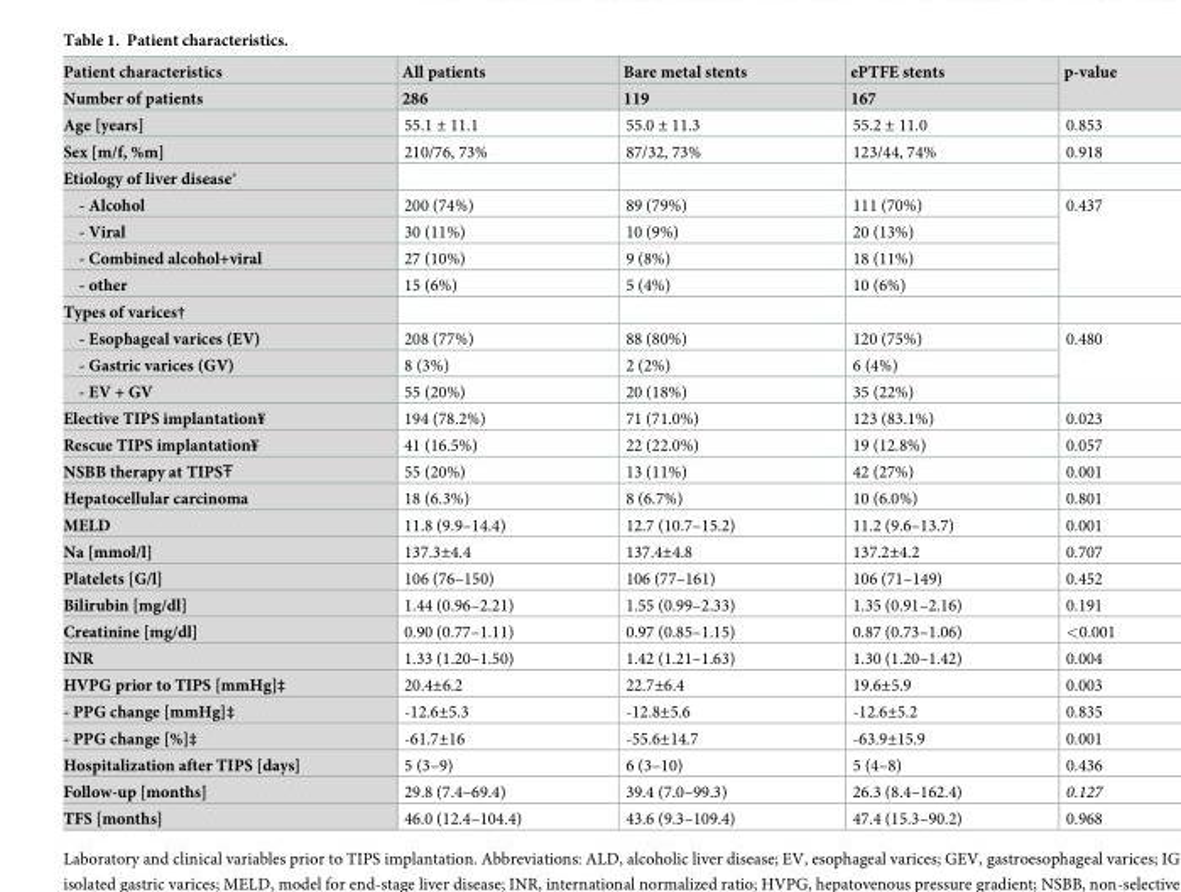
<table><thead><tr><td rowspan="2">Patient characteristics Number of patients</td><td rowspan="2">All patients 286</td><td rowspan="2">Bare metal stents 119</td><td rowspan="2">ePTFE stents 167</td><td rowspan="2">p-value</td></tr><tr></tr></thead><tbody><tr><td>Age [years]</td><td>55.1 ± 11.1</td><td>55.0 ± 11.3</td><td>55.2 ± 11.0</td><td>0.853</td></tr><tr><td>Sex [m/f, %m]</td><td>210/76, 73%</td><td>87/32, 73%</td><td>123/44, 74%</td><td>0.918</td></tr><tr><td colspan="5">Etiology of liver disease*</td></tr><tr><td>- Alcohol</td><td>200 (74%)</td><td>89 (79%)</td><td>111 (70%)</td><td rowspan="4">0.437</td></tr><tr><td>- Viral</td><td>30 (11%)</td><td>10 (9%)</td><td>20 (13%)</td></tr><tr><td>- Combined alcohol+viral</td><td>27 (10%)</td><td>9 (8%)</td><td>18 (11%)</td></tr><tr><td>- other</td><td>15 (6%)</td><td>5 (4%)</td><td>10 (6%)</td></tr><tr><td colspan="5">Types of varices†</td></tr><tr><td>- Esophageal varices (EV)</td><td>208 (77%)</td><td>88 (80%)</td><td>120 (75%)</td><td rowspan="3">0.480</td></tr><tr><td>- Gastric varices (GV)</td><td>8 (3%)</td><td>2 (2%)</td><td>6 (4%)</td></tr><tr><td>- EV + GV</td><td>55 (20%)</td><td>20 (18%)</td><td>35 (22%)</td></tr><tr><td>Elective TIPS implantation¥</td><td>194 (78.2%)</td><td>71 (71.0%)</td><td>123 (83.1%)</td><td>0.023</td></tr><tr><td>Rescue TIPS implantation¥</td><td>41 (16.5%)</td><td>22 (22.0%)</td><td>19 (12.8%)</td><td>0.057</td></tr><tr><td>NSBB therapy at TIPSŦ</td><td>55 (20%)</td><td>13 (11%)</td><td>42 (27%)</td><td>0.001</td></tr><tr><td>Hepatocellular carcinoma</td><td>18 (6.3%)</td><td>8 (6.7%)</td><td>10 (6.0%)</td><td>0.801</td></tr><tr><td>MELD</td><td>11.8 (9.9–14.4)</td><td>12.7 (10.7–15.2)</td><td>11.2 (9.6–13.7)</td><td>0.001</td></tr><tr><td>Na [mmol/l]</td><td>137.3±4.4</td><td>137.4±4.8</td><td>137.2±4.2</td><td>0.707</td></tr><tr><td>Platelets [G/l]</td><td>106 (76–150)</td><td>106 (77–161)</td><td>106 (71–149)</td><td>0.452</td></tr><tr><td>Bilirubin [mg/dl]</td><td>1.44 (0.96–2.21)</td><td>1.55 (0.99–2.33)</td><td>1.35 (0.91–2.16)</td><td>0.191</td></tr><tr><td>Creatinine [mg/dl]</td><td>0.90 (0.77–1.11)</td><td>0.97 (0.85–1.15)</td><td>0.87 (0.73–1.06)</td><td>&lt;0.001</td></tr><tr><td>INR</td><td>1.33 (1.20–1.50)</td><td>1.42 (1.21–1.63)</td><td>1.30 (1.20–1.42)</td><td>0.004</td></tr><tr><td>HVPG prior to TIPS [mmHg]‡</td><td>20.4±6.2</td><td>22.7±6.4</td><td>19.6±5.9</td><td>0.003</td></tr><tr><td>- PPG change [mmHg]‡</td><td>-12.6±5.3</td><td>-12.8±5.6</td><td>-12.6±5.2</td><td>0.835</td></tr><tr><td>- PPG change [%]‡</td><td>-61.7±16</td><td>-55.6±14.7</td><td>-63.9±15.9</td><td>0.001</td></tr><tr><td>Hospitalization after TIPS [days]</td><td>5 (3–9)</td><td>6 (3–10)</td><td>5 (4–8)</td><td>0.436</td></tr><tr><td>Follow-up [months]</td><td>29.8 (7.4–69.4)</td><td>39.4 (7.0–99.3)</td><td>26.3 (8.4–162.4)</td><td>0.127</td></tr><tr><td>TFS [months]</td><td>46.0 (12.4–104.4)</td><td>43.6 (9.3–109.4)</td><td>47.4 (15.3–90.2)</td><td>0.968</td></tr></tbody></table>